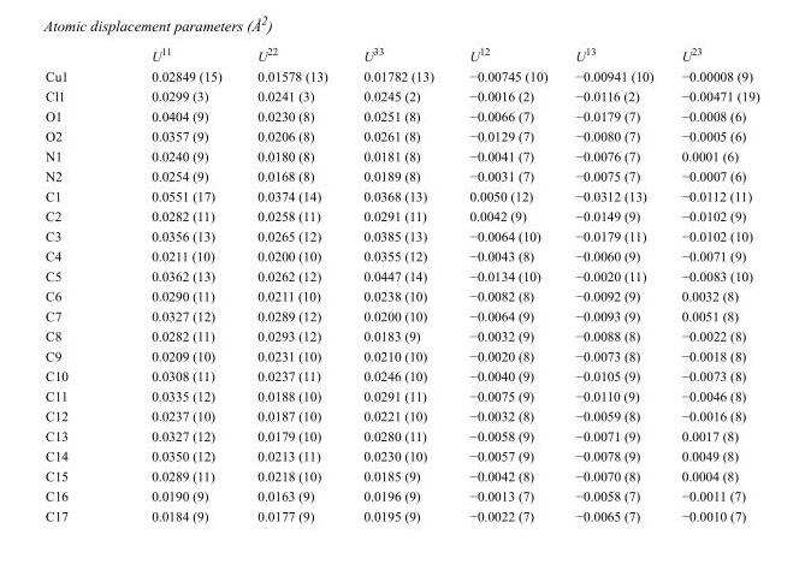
<table><thead><tr><td></td><td>U<sup>11</sup></td><td>U<sup>22</sup></td><td>U<sup>33</sup></td><td>U<sup>12</sup></td><td>U<sup>13</sup></td><td>U<sup>23</sup></td></tr></thead><tbody><tr><td>Cu1</td><td>0.02849 (15)</td><td>0.01578 (13)</td><td>0.01782 (13)</td><td>−0.00745 (10)</td><td>−0.00941 (10)</td><td>−0.00008 (9)</td></tr><tr><td>Cl1</td><td>0.0299 (3)</td><td>0.0241 (3)</td><td>0.0245 (2)</td><td>−0.0016 (2)</td><td>−0.0116 (2)</td><td>−0.00471 (19)</td></tr><tr><td>O1</td><td>0.0404 (9)</td><td>0.0230 (8)</td><td>0.0251 (8)</td><td>−0.0066 (7)</td><td>−0.0179 (7)</td><td>−0.0008 (6)</td></tr><tr><td>O2</td><td>0.0357 (9)</td><td>0.0206 (8)</td><td>0.0261 (8)</td><td>−0.0129 (7)</td><td>−0.0080 (7)</td><td>−0.0005 (6)</td></tr><tr><td>N1</td><td>0.0240 (9)</td><td>0.0180 (8)</td><td>0.0181 (8)</td><td>−0.0041 (7)</td><td>−0.0076 (7)</td><td>0.0001 (6)</td></tr><tr><td>N2</td><td>0.0254 (9)</td><td>0.0168 (8)</td><td>0.0189 (8)</td><td>−0.0031 (7)</td><td>−0.0075 (7)</td><td>−0.0007 (6)</td></tr><tr><td>C1</td><td>0.0551 (17)</td><td>0.0374 (14)</td><td>0.0368 (13)</td><td>0.0050 (12)</td><td>−0.0312 (13)</td><td>−0.0112 (11)</td></tr><tr><td>C2</td><td>0.0282 (11)</td><td>0.0258 (11)</td><td>0.0291 (11)</td><td>0.0042 (9)</td><td>−0.0149 (9)</td><td>−0.0102 (9)</td></tr><tr><td>C3</td><td>0.0356 (13)</td><td>0.0265 (12)</td><td>0.0385 (13)</td><td>−0.0064 (10)</td><td>−0.0179 (11)</td><td>−0.0102 (10)</td></tr><tr><td>C4</td><td>0.0211 (10)</td><td>0.0200 (10)</td><td>0.0355 (12)</td><td>−0.0043 (8)</td><td>−0.0060 (9)</td><td>−0.0071 (9)</td></tr><tr><td>C5</td><td>0.0362 (13)</td><td>0.0262 (12)</td><td>0.0447 (14)</td><td>−0.0134 (10)</td><td>−0.0020 (11)</td><td>−0.0083 (10)</td></tr><tr><td>C6</td><td>0.0290 (11)</td><td>0.0211 (10)</td><td>0.0238 (10)</td><td>−0.0082 (8)</td><td>−0.0092 (9)</td><td>0.0032 (8)</td></tr><tr><td>C7</td><td>0.0327 (12)</td><td>0.0289 (12)</td><td>0.0200 (10)</td><td>−0.0064 (9)</td><td>−0.0093 (9)</td><td>0.0051 (8)</td></tr><tr><td>C8</td><td>0.0282 (11)</td><td>0.0293 (12)</td><td>0.0183 (9)</td><td>−0.0032 (9)</td><td>−0.0088 (8)</td><td>−0.0022 (8)</td></tr><tr><td>C9</td><td>0.0209 (10)</td><td>0.0231 (10)</td><td>0.0210 (10)</td><td>−0.0020 (8)</td><td>−0.0073 (8)</td><td>−0.0018 (8)</td></tr><tr><td>C10</td><td>0.0308 (11)</td><td>0.0237 (11)</td><td>0.0246 (10)</td><td>−0.0040 (9)</td><td>−0.0105 (9)</td><td>−0.0073 (8)</td></tr><tr><td>C11</td><td>0.0335 (12)</td><td>0.0188 (10)</td><td>0.0291 (11)</td><td>−0.0075 (9)</td><td>−0.0110 (9)</td><td>−0.0046 (8)</td></tr><tr><td>C12</td><td>0.0237 (10)</td><td>0.0187 (10)</td><td>0.0221 (10)</td><td>−0.0032 (8)</td><td>−0.0059 (8)</td><td>−0.0016 (8)</td></tr><tr><td>C13</td><td>0.0327 (12)</td><td>0.0179 (10)</td><td>0.0280 (11)</td><td>−0.0058 (9)</td><td>−0.0071 (9)</td><td>0.0017 (8)</td></tr><tr><td>C14</td><td>0.0350 (12)</td><td>0.0213 (11)</td><td>0.0230 (10)</td><td>−0.0057 (9)</td><td>−0.0078 (9)</td><td>0.0049 (8)</td></tr><tr><td>C15</td><td>0.0289 (11)</td><td>0.0218 (10)</td><td>0.0185 (9)</td><td>−0.0042 (8)</td><td>−0.0070 (8)</td><td>0.0004 (8)</td></tr><tr><td>C16</td><td>0.0190 (9)</td><td>0.0163 (9)</td><td>0.0196 (9)</td><td>−0.0013 (7)</td><td>−0.0058 (7)</td><td>−0.0011 (7)</td></tr><tr><td>C17</td><td>0.0184 (9)</td><td>0.0177 (9)</td><td>0.0195 (9)</td><td>−0.0022 (7)</td><td>−0.0065 (7)</td><td>−0.0010 (7)</td></tr></tbody></table>